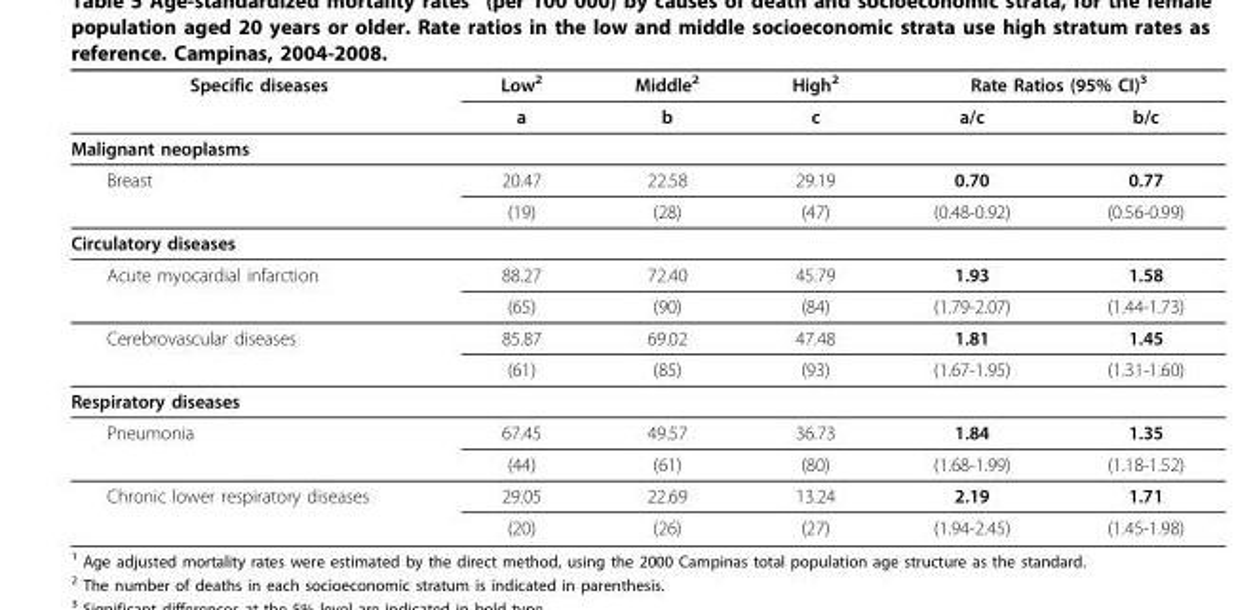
<table><thead><tr><td rowspan="2">Specific diseases</td><td rowspan="2">Low2 a</td><td rowspan="2">Middle2 b</td><td rowspan="2">High2 c</td><td colspan="2">Rate Ratios (95% CI)3</td></tr><tr><td>a/c</td><td>b/c</td></tr></thead><tbody><tr><td colspan="6">Malignant neoplasms</td></tr><tr><td rowspan="2">Breast</td><td>20.47</td><td>22.58</td><td>29.19</td><td>0.70</td><td>0.77</td></tr><tr><td>(19)</td><td>(28)</td><td>(47)</td><td>(0.48-0.92)</td><td>(0.56-0.99)</td></tr><tr><td colspan="6">Circulatory diseases</td></tr><tr><td rowspan="2">Acute myocardial infarction</td><td>88.27</td><td>72.40</td><td>45.79</td><td>1.93</td><td>1.58</td></tr><tr><td>(65)</td><td>(90)</td><td>(84)</td><td>(1.79-2.07)</td><td>(1.44-1.73)</td></tr><tr><td rowspan="2">Cerebrovascular diseases</td><td>85.87</td><td>69.02</td><td>47.48</td><td>1.81</td><td>1.45</td></tr><tr><td>(61)</td><td>(85)</td><td>(93)</td><td>(1.67-1.95)</td><td>(1.31-1.60)</td></tr><tr><td colspan="6">Respiratory diseases</td></tr><tr><td rowspan="2">Pneumonia</td><td>67.45</td><td>49.57</td><td>36.73</td><td>1.84</td><td>1.35</td></tr><tr><td>(44)</td><td>(61)</td><td>(80)</td><td>(1.68-1.99)</td><td>(1.18-1.52)</td></tr><tr><td rowspan="2">Chronic lower respiratory diseases</td><td>29.05</td><td>22.69</td><td>13.24</td><td>2.19</td><td>1.71</td></tr><tr><td>(20)</td><td>(26)</td><td>(27)</td><td>(1.94-2.45)</td><td>(1.45-1.98)</td></tr></tbody></table>